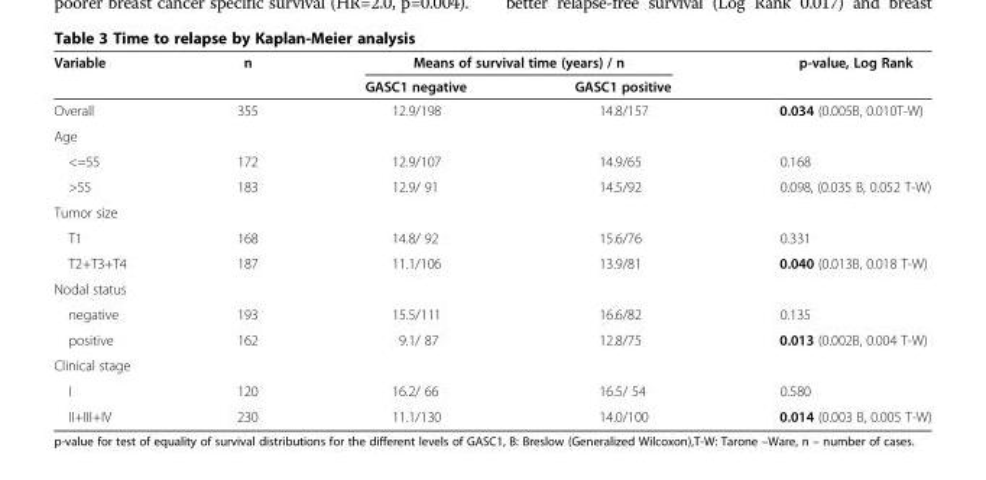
<table><thead><tr><td rowspan="2">Variable</td><td rowspan="2">n</td><td colspan="2">Means of survival time (years) / n</td><td rowspan="2">p-value, Log Rank</td></tr><tr><td>GASC1 negative</td><td>GASC1 positive</td></tr></thead><tbody><tr><td>Overall</td><td>355</td><td>12.9/198</td><td>14.8/157</td><td>0.034 (0.005B, 0.010T-W)</td></tr><tr><td colspan="5">Age</td></tr><tr><td>&lt;=55</td><td>172</td><td>12.9/107</td><td>14.9/65</td><td>0.168</td></tr><tr><td>&gt;55</td><td>183</td><td>12.9/ 91</td><td>14.5/92</td><td>0.098, (0.035 B, 0.052 T-W)</td></tr><tr><td colspan="5">Tumor size</td></tr><tr><td>T1</td><td>168</td><td>14.8/ 92</td><td>15.6/76</td><td>0.331</td></tr><tr><td>T2+T3+T4</td><td>187</td><td>11.1/106</td><td>13.9/81</td><td>0.040 (0.013B, 0.018 T-W)</td></tr><tr><td colspan="5">Nodal status</td></tr><tr><td>negative</td><td>193</td><td>15.5/111</td><td>16.6/82</td><td>0.135</td></tr><tr><td>positive</td><td>162</td><td>9.1/ 87</td><td>12.8/75</td><td>0.013 (0.002B, 0.004 T-W)</td></tr><tr><td colspan="5">Clinical stage</td></tr><tr><td>I</td><td>120</td><td>16.2/ 66</td><td>16.5/ 54</td><td>0.580</td></tr><tr><td>II+III+IV</td><td>230</td><td>11.1/130</td><td>14.0/100</td><td>0.014 (0.003 B, 0.005 T-W)</td></tr></tbody></table>